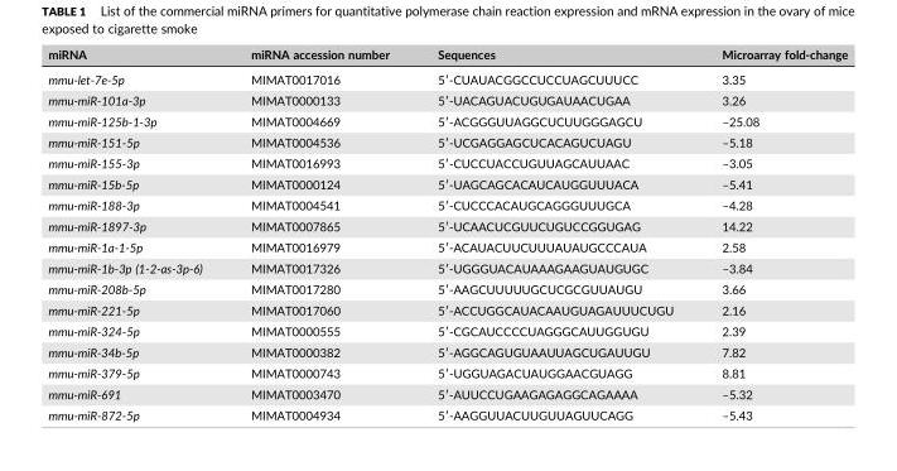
<table><thead><tr><td>miRNA</td><td>miRNA accession number</td><td>Sequences</td><td>Microarray fold‐change</td></tr></thead><tbody><tr><td>mmu‐let‐7e‐5p</td><td>MIMAT0017016</td><td>5′‐CUAUACGGCCUCCUAGCUUUCC</td><td>3.35</td></tr><tr><td>mmu‐miR‐101a‐3p</td><td>MIMAT0000133</td><td>5′‐UACAGUACUGUGAUAACUGAA</td><td>3.26</td></tr><tr><td>mmu‐miR‐125b‐1‐3p</td><td>MIMAT0004669</td><td>5′‐ACGGGUUAGGCUCUUGGGAGCU</td><td>–25.08</td></tr><tr><td>mmu‐miR‐151‐5p</td><td>MIMAT0004536</td><td>5′‐UCGAGGAGCUCACAGUCUAGU</td><td>–5.18</td></tr><tr><td>mmu‐miR‐155‐3p</td><td>MIMAT0016993</td><td>5′‐CUCCUACCUGUUAGCAUUAAC</td><td>–3.05</td></tr><tr><td>mmu‐miR‐15b‐5p</td><td>MIMAT0000124</td><td>5′‐UAGCAGCACAUCAUGGUUUACA</td><td>–5.41</td></tr><tr><td>mmu‐miR‐188‐3p</td><td>MIMAT0004541</td><td>5′‐CUCCCACAUGCAGGGUUUGCA</td><td>–4.28</td></tr><tr><td>mmu‐miR‐1897‐3p</td><td>MIMAT0007865</td><td>5′‐UCAACUCGUUCUGUCCGGUGAG</td><td>14.22</td></tr><tr><td>mmu‐miR‐1a‐1‐5p</td><td>MIMAT0016979</td><td>5′‐ACAUACUUCUUUAUAUGCCCAUA</td><td>2.58</td></tr><tr><td>mmu‐miR‐1b‐3p (1‐2‐as‐3p‐6)</td><td>MIMAT0017326</td><td>5′‐UGGGUACAUAAAGAAGUAUGUGC</td><td>–3.84</td></tr><tr><td>mmu‐miR‐208b‐5p</td><td>MIMAT0017280</td><td>5′‐AAGCUUUUUGCUCGCGUUAUGU</td><td>3.66</td></tr><tr><td>mmu‐miR‐221‐5p</td><td>MIMAT0017060</td><td>5′‐ACCUGGCAUACAAUGUAGAUUUCUGU</td><td>2.16</td></tr><tr><td>mmu‐miR‐324‐5p</td><td>MIMAT0000555</td><td>5′‐CGCAUCCCCUAGGGCAUUGGUGU</td><td>2.39</td></tr><tr><td>mmu‐miR‐34b‐5p</td><td>MIMAT0000382</td><td>5′‐AGGCAGUGUAAUUAGCUGAUUGU</td><td>7.82</td></tr><tr><td>mmu‐miR‐379‐5p</td><td>MIMAT0000743</td><td>5′‐UGGUAGACUAUGGAACGUAGG</td><td>8.81</td></tr><tr><td>mmu‐miR‐691</td><td>MIMAT0003470</td><td>5′‐AUUCCUGAAGAGAGGCAGAAAA</td><td>–5.32</td></tr><tr><td>mmu‐miR‐872‐5p</td><td>MIMAT0004934</td><td>5′‐AAGGUUACUUGUUAGUUCAGG</td><td>–5.43</td></tr></tbody></table>